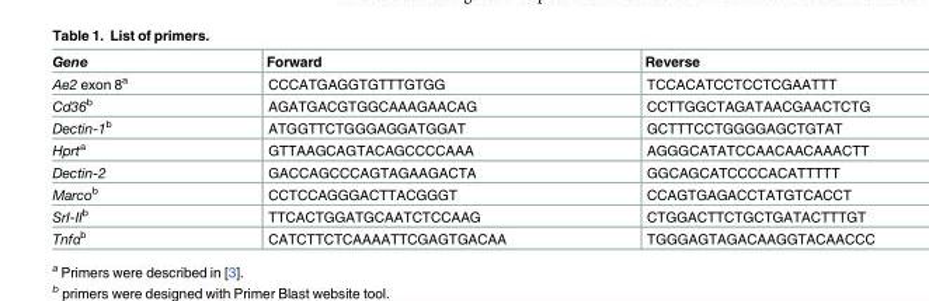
<table><thead><tr><td>Gene</td><td>Forward</td><td>Reverse</td></tr></thead><tbody><tr><td>Ae2 exon 8<sup>a</sup></td><td>CCCATGAGGTGTTTGTGG</td><td>TCCACATCCTCCTCGAATTT</td></tr><tr><td>Cd36<sup>b</sup></td><td>AGATGACGTGGCAAAGAACAG</td><td>CCTTGGCTAGATAACGAACTCTG</td></tr><tr><td>Dectin-1<sup>b</sup></td><td>ATGGTTCTGGGAGGATGGAT</td><td>GCTTTCCTGGGGAGCTGTAT</td></tr><tr><td>Hprt<sup>a</sup></td><td>GTTAAGCAGTACAGCCCCAAA</td><td>AGGGCATATCCAACAACAAACTT</td></tr><tr><td>Dectin-2</td><td>GACCAGCCCAGTAGAAGACTA</td><td>GGCAGCATCCCCACATTTTT</td></tr><tr><td>Marco<sup>b</sup></td><td>CCTCCAGGGACTTACGGGT</td><td>CCAGTGAGACCTATGTCACCT</td></tr><tr><td>SrI-II<sup>b</sup></td><td>TTCACTGGATGCAATCTCCAAG</td><td>CTGGACTTCTGCTGATACTTTGT</td></tr><tr><td>Tnfα<sup>b</sup></td><td>CATCTTCTCAAAATTCGAGTGACAA</td><td>TGGGAGTAGACAAGGTACAACCC</td></tr></tbody></table>